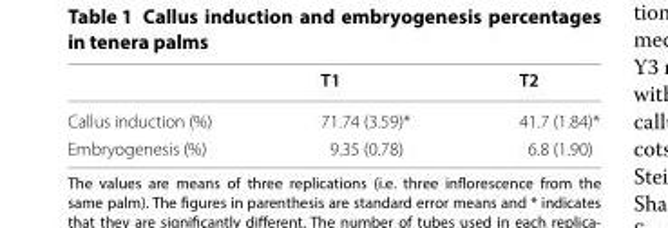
<table><thead><tr><td></td><td>T1</td><td>T2</td></tr></thead><tbody><tr><td>Callus induction (%)</td><td>71.74 (3.59)*</td><td>41.7 (1.84)*</td></tr><tr><td>Embryogenesis (%)</td><td>9.35 (0.78)</td><td>6.8 (1.90)</td></tr></tbody></table>